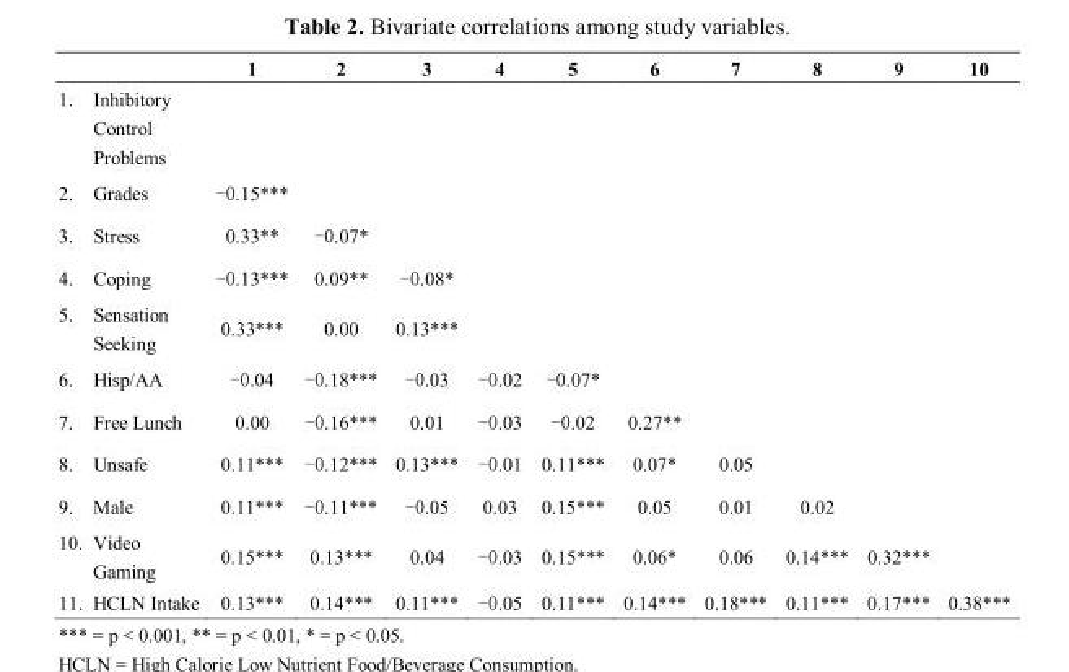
<table><thead><tr><td></td><td>1</td><td>2</td><td>3</td><td>4</td><td>5</td><td>6</td><td>7</td><td>8</td><td>9</td><td>10</td></tr></thead><tbody><tr><td colspan="11">1. Inhibitory Control Problems</td></tr><tr><td>2. Grades</td><td>-0.15***</td><td></td><td></td><td></td><td></td><td></td><td></td><td></td><td></td><td></td></tr><tr><td>3. Stress</td><td>0.33**</td><td>-0.07*</td><td></td><td></td><td></td><td></td><td></td><td></td><td></td><td></td></tr><tr><td>4. Coping</td><td>-0.13***</td><td>0.09**</td><td>-0.08*</td><td></td><td></td><td></td><td></td><td></td><td></td><td></td></tr><tr><td>5. Sensation Seeking</td><td>0.33***</td><td>0.00</td><td>0.13***</td><td></td><td></td><td></td><td></td><td></td><td></td><td></td></tr><tr><td>6. Hisp/AA</td><td>-0.04</td><td>-0.18***</td><td>-0.03</td><td>-0.02</td><td>-0.07*</td><td></td><td></td><td></td><td></td><td></td></tr><tr><td>7. Free Lunch</td><td>0.00</td><td>-0.16***</td><td>0.01</td><td>-0.03</td><td>-0.02</td><td>0.27**</td><td></td><td></td><td></td><td></td></tr><tr><td>8. Unsafe</td><td>0.11***</td><td>-0.12***</td><td>0.13***</td><td>-0.01</td><td>0.11***</td><td>0.07*</td><td>0.05</td><td></td><td></td><td></td></tr><tr><td>9. Male</td><td>0.11***</td><td>-0.11***</td><td>-0.05</td><td>0.03</td><td>0.15***</td><td>0.05</td><td>0.01</td><td>0.02</td><td></td><td></td></tr><tr><td>10. Video Gaming</td><td>0.15***</td><td>0.13***</td><td>0.04</td><td>-0.03</td><td>0.15***</td><td>0.06*</td><td>0.06</td><td>0.14***</td><td>0.32***</td><td></td></tr><tr><td>11. HCLN Intake</td><td>0.13***</td><td>0.14***</td><td>0.11***</td><td>-0.05</td><td>0.11***</td><td>0.14***</td><td>0.18***</td><td>0.11***</td><td>0.17***</td><td>0.38***</td></tr></tbody></table>